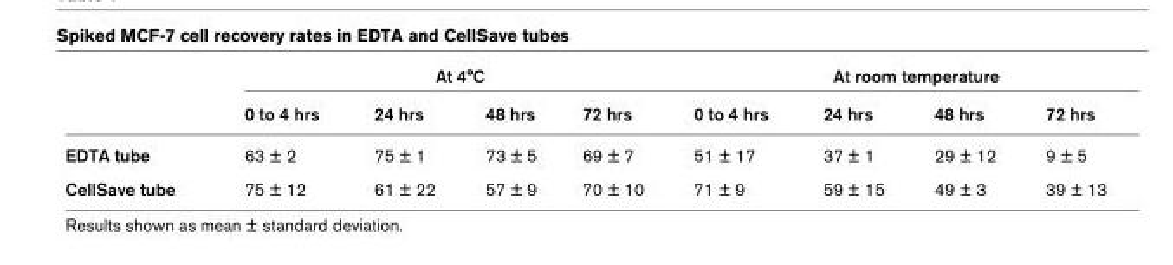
<table><thead><tr><td rowspan="2"></td><td colspan="4">At 4°C</td><td colspan="4">At room temperature</td></tr><tr><td>0 to 4 hrs</td><td>24 hrs</td><td>48 hrs</td><td>72 hrs</td><td>0 to 4 hrs</td><td>24 hrs</td><td>48 hrs</td><td>72 hrs</td></tr></thead><tbody><tr><td>EDTA tube</td><td>63 ± 2</td><td>75 ± 1</td><td>73 ± 5</td><td>69 ± 7</td><td>51 ± 17</td><td>37 ± 1</td><td>29 ± 12</td><td>9 ± 5</td></tr><tr><td>CellSave tube</td><td>75 ± 12</td><td>61 ± 22</td><td>57 ± 9</td><td>70 ± 10</td><td>71 ± 9</td><td>59 ± 15</td><td>49 ± 3</td><td>39 ± 13</td></tr></tbody></table>